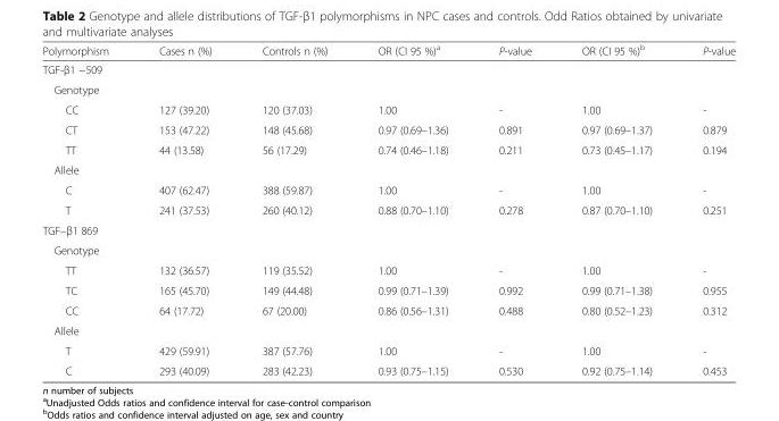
<table><thead><tr><td>Polymorphism</td><td>Cases n (%)</td><td>Controls n (%)</td><td>OR (CI 95 %)<sup>a</sup></td><td>P-value</td><td>OR (CI 95 %)<sup>b</sup></td><td>P-value</td></tr></thead><tbody><tr><td colspan="7">TGF-β1 −509</td></tr><tr><td colspan="7">Genotype</td></tr><tr><td>CC</td><td>127 (39.20)</td><td>120 (37.03)</td><td>1.00</td><td>-</td><td>1.00</td><td>-</td></tr><tr><td>CT</td><td>153 (47.22)</td><td>148 (45.68)</td><td>0.97 (0.69–1.36)</td><td>0.891</td><td>0.97 (0.69–1.37)</td><td>0.879</td></tr><tr><td>TT</td><td>44 (13.58)</td><td>56 (17.29)</td><td>0.74 (0.46–1.18)</td><td>0.211</td><td>0.73 (0.45–1.17)</td><td>0.194</td></tr><tr><td colspan="7">Allele</td></tr><tr><td>C</td><td>407 (62.47)</td><td>388 (59.87)</td><td>1.00</td><td>-</td><td>1.00</td><td>-</td></tr><tr><td>T</td><td>241 (37.53)</td><td>260 (40.12)</td><td>0.88 (0.70–1.10)</td><td>0.278</td><td>0.87 (0.70–1.10)</td><td>0.251</td></tr><tr><td colspan="7">TGF–β1 869</td></tr><tr><td colspan="7">Genotype</td></tr><tr><td>TT</td><td>132 (36.57)</td><td>119 (35.52)</td><td>1.00</td><td>-</td><td>1.00</td><td>-</td></tr><tr><td>TC</td><td>165 (45.70)</td><td>149 (44.48)</td><td>0.99 (0.71–1.39)</td><td>0.992</td><td>0.99 (0.71–1.38)</td><td>0.955</td></tr><tr><td>CC</td><td>64 (17.72)</td><td>67 (20.00)</td><td>0.86 (0.56–1.31)</td><td>0.488</td><td>0.80 (0.52–1.23)</td><td>0.312</td></tr><tr><td colspan="7">Allele</td></tr><tr><td>T</td><td>429 (59.91)</td><td>387 (57.76)</td><td>1.00</td><td>-</td><td>1.00</td><td>-</td></tr><tr><td>C</td><td>293 (40.09)</td><td>283 (42.23)</td><td>0.93 (0.75–1.15)</td><td>0.530</td><td>0.92 (0.75–1.14)</td><td>0.453</td></tr></tbody></table>